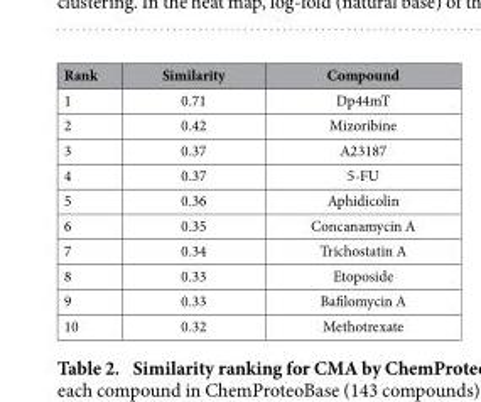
<table><thead><tr><td>Rank</td><td>Similarity</td><td>Compound</td></tr></thead><tbody><tr><td>1</td><td>0.71</td><td>Dp44mT</td></tr><tr><td>2</td><td>0.42</td><td>Mizoribine</td></tr><tr><td>3</td><td>0.37</td><td>A23187</td></tr><tr><td>4</td><td>0.37</td><td>5-FU</td></tr><tr><td>5</td><td>0.36</td><td>Aphidicolin</td></tr><tr><td>6</td><td>0.35</td><td>Concanamycin A</td></tr><tr><td>7</td><td>0.34</td><td>Trichostatin A</td></tr><tr><td>8</td><td>0.33</td><td>Etoposide</td></tr><tr><td>9</td><td>0.33</td><td>Bafilomycin A</td></tr><tr><td>10</td><td>0.32</td><td>Methotrexate</td></tr></tbody></table>